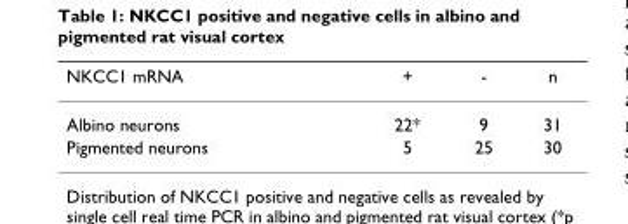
<table><thead><tr><td>NKCC1 mRNA</td><td>+</td><td>-</td><td>n</td></tr></thead><tbody><tr><td>Albino neurons</td><td>22*</td><td>9</td><td>31</td></tr><tr><td>Pigmented neurons</td><td>5</td><td>25</td><td>30</td></tr></tbody></table>